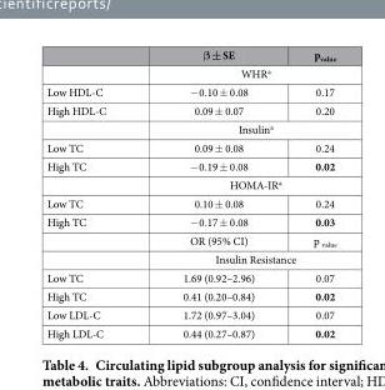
<table><thead><tr><td></td><td>β ± SE</td><td>p<sub>value</sub></td></tr></thead><tbody><tr><td></td><td colspan="2">WHR<sup>a</sup></td></tr><tr><td>Low HDL-C</td><td>− 0.10 ± 0.08</td><td>0.17</td></tr><tr><td rowspan="2">High HDL-C</td><td>0.09 ± 0.07</td><td>0.20</td></tr><tr><td colspan="2">Insulin<sup>a</sup></td></tr><tr><td>Low TC</td><td>0.09 ± 0.08</td><td>0.24</td></tr><tr><td rowspan="2">High TC</td><td>− 0.19 ± 0.08</td><td>0.02</td></tr><tr><td colspan="2">HOMA-IR<sup>a</sup></td></tr><tr><td>Low TC</td><td>0.10 ± 0.08</td><td>0.24</td></tr><tr><td rowspan="3">High TC</td><td>− 0.17 ± 0.08</td><td>0.03</td></tr><tr><td>OR (95% CI)</td><td>p <sub>value</sub></td></tr><tr><td colspan="2">Insulin Resistance</td></tr><tr><td>Low TC</td><td>1.69 (0.92–2.96)</td><td>0.07</td></tr><tr><td>High TC</td><td>0.41 (0.20–0.84)</td><td>0.02</td></tr><tr><td>Low LDL-C</td><td>1.72 (0.97–3.04)</td><td>0.07</td></tr><tr><td>High LDL-C</td><td>0.44 (0.27–0.87)</td><td>0.02</td></tr></tbody></table>